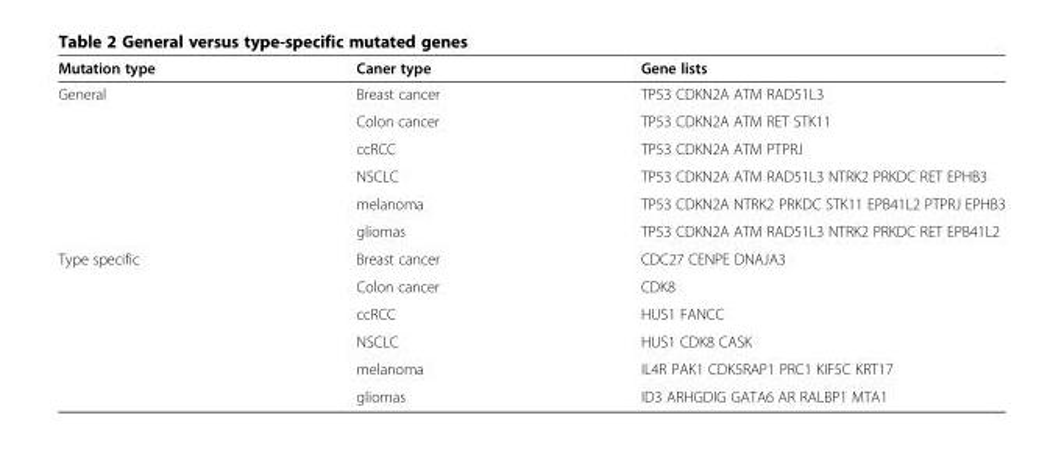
<table><thead><tr><td>Mutation type</td><td>Caner type</td><td>Gene lists</td></tr></thead><tbody><tr><td rowspan="6">General</td><td>Breast cancer</td><td>TP53 CDKN2A ATM RAD51L3</td></tr><tr><td>Colon cancer</td><td>TP53 CDKN2A ATM RET STK11</td></tr><tr><td>ccRCC</td><td>TP53 CDKN2A ATM PTPRJ</td></tr><tr><td>NSCLC</td><td>TP53 CDKN2A ATM RAD51L3 NTRK2 PRKDC RET EPHB3</td></tr><tr><td>melanoma</td><td>TP53 CDKN2A NTRK2 PRKDC STK11 EPB41L2 PTPRJ EPHB3</td></tr><tr><td>gliomas</td><td>TP53 CDKN2A ATM RAD51L3 NTRK2 PRKDC RET EPB41L2</td></tr><tr><td rowspan="6">Type specific</td><td>Breast cancer</td><td>CDC27 CENPE DNAJA3</td></tr><tr><td>Colon cancer</td><td>CDK8</td></tr><tr><td>ccRCC</td><td>HUS1 FANCC</td></tr><tr><td>NSCLC</td><td>HUS1 CDK8 CASK</td></tr><tr><td>melanoma</td><td>IL4R PAK1 CDK5RAP1 PRC1 KIF5C KRT17</td></tr><tr><td>gliomas</td><td>ID3 ARHGDIG GATA6 AR RALBP1 MTA1</td></tr></tbody></table>